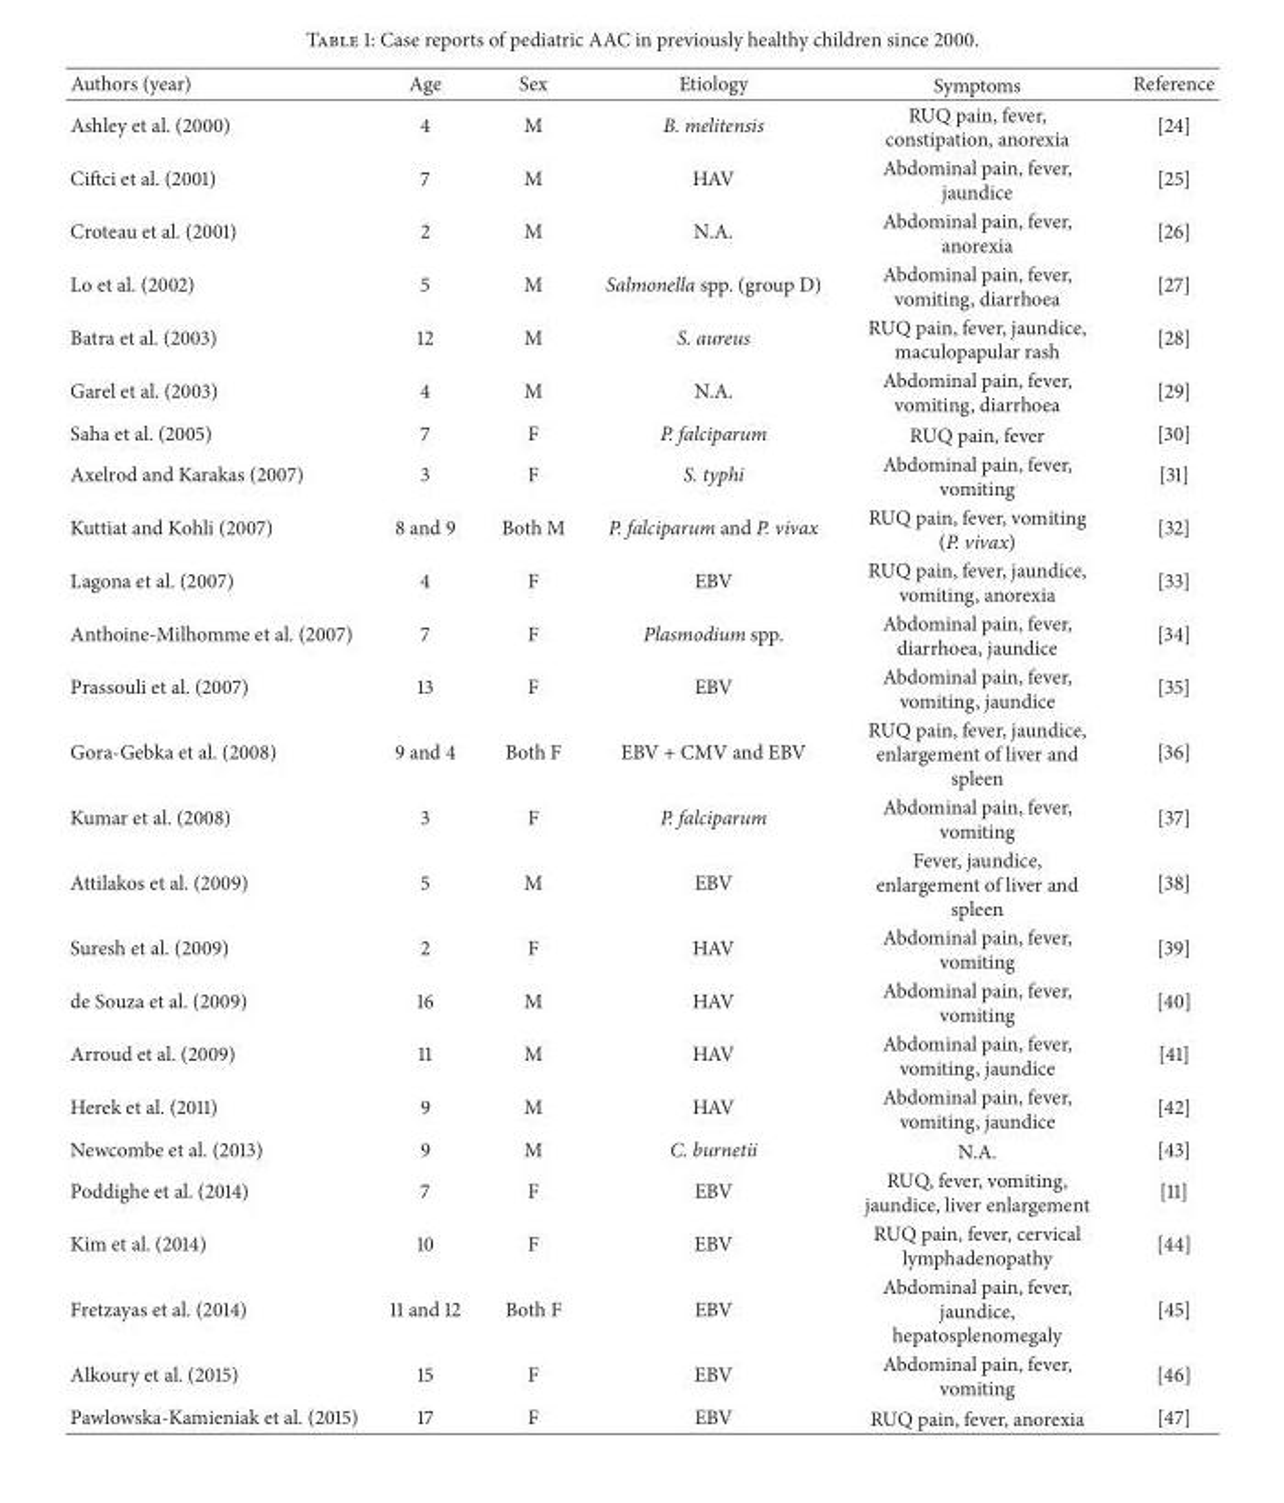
<table><thead><tr><td>Authors (year)</td><td>Age</td><td>Sex</td><td>Etiology</td><td>Symptoms</td><td>Reference</td></tr></thead><tbody><tr><td>Ashley et al. (2000)</td><td>4</td><td>M</td><td>B. melitensis</td><td>RUQ pain, fever, constipation, anorexia</td><td>[24]</td></tr><tr><td>Ciftci et al. (2001)</td><td>7</td><td>M</td><td>HAV</td><td>Abdominal pain, fever, jaundice</td><td>[25]</td></tr><tr><td>Croteau et al. (2001)</td><td>2</td><td>M</td><td>N.A.</td><td>Abdominal pain, fever, anorexia</td><td>[26]</td></tr><tr><td>Lo et al. (2002)</td><td>5</td><td>M</td><td>Salmonella spp. (group D)</td><td>Abdominal pain, fever, vomiting, diarrhoea</td><td>[27]</td></tr><tr><td>Batra et al. (2003)</td><td>12</td><td>M</td><td>S. aureus</td><td>RUQ pain, fever, jaundice, maculopapular rash</td><td>[28]</td></tr><tr><td>Garel et al. (2003)</td><td>4</td><td>M</td><td>N.A.</td><td>Abdominal pain, fever, vomiting, diarrhoea</td><td>[29]</td></tr><tr><td>Saha et al. (2005)</td><td>7</td><td>F</td><td>P. falciparum</td><td>RUQ pain, fever</td><td>[30]</td></tr><tr><td>Axelrod and Karakas (2007)</td><td>3</td><td>F</td><td>S. typhi</td><td>Abdominal pain, fever, vomiting</td><td>[31]</td></tr><tr><td>Kuttiat and Kohli (2007)</td><td>8 and 9</td><td>Both M</td><td>P. falciparum and P. vivax</td><td>RUQ pain, fever, vomiting (P. vivax)</td><td>[32]</td></tr><tr><td>Lagona et al. (2007)</td><td>4</td><td>F</td><td>EBV</td><td>RUQ pain, fever, jaundice, vomiting, anorexia</td><td>[33]</td></tr><tr><td>Anthoine-Milhomme et al. (2007)</td><td>7</td><td>F</td><td>Plasmodium spp.</td><td>Abdominal pain, fever, diarrhoea, jaundice</td><td>[34]</td></tr><tr><td>Prassouli et al. (2007)</td><td>13</td><td>F</td><td>EBV</td><td>Abdominal pain, fever, vomiting, jaundice</td><td>[35]</td></tr><tr><td>Gora-Gebka et al. (2008)</td><td>9 and 4</td><td>Both F</td><td>EBV + CMV and EBV</td><td>RUQ pain, fever, jaundice, enlargement of liver and spleen</td><td>[36]</td></tr><tr><td>Kumar et al. (2008)</td><td>3</td><td>F</td><td>P. falciparum</td><td>Abdominal pain, fever, vomiting</td><td>[37]</td></tr><tr><td>Attilakos et al. (2009)</td><td>5</td><td>M</td><td>EBV</td><td>Fever, jaundice, enlargement of liver and spleen</td><td>[38]</td></tr><tr><td>Suresh et al. (2009)</td><td>2</td><td>F</td><td>HAV</td><td>Abdominal pain, fever, vomiting</td><td>[39]</td></tr><tr><td>de Souza et al. (2009)</td><td>16</td><td>M</td><td>HAV</td><td>Abdominal pain, fever, vomiting</td><td>[40]</td></tr><tr><td>Arroud et al. (2009)</td><td>11</td><td>M</td><td>HAV</td><td>Abdominal pain, fever, vomiting, jaundice</td><td>[41]</td></tr><tr><td>Herek et al. (2011)</td><td>9</td><td>M</td><td>HAV</td><td>Abdominal pain, fever, vomiting, jaundice</td><td>[42]</td></tr><tr><td>Newcombe et al. (2013)</td><td>9</td><td>M</td><td>C. burnetii</td><td>N.A.</td><td>[43]</td></tr><tr><td>Poddighe et al. (2014)</td><td>7</td><td>F</td><td>EBV</td><td>RUQ, fever, vomiting, jaundice, liver enlargement</td><td>[11]</td></tr><tr><td>Kim et al. (2014)</td><td>10</td><td>F</td><td>EBV</td><td>RUQ pain, fever, cervical lymphadenopathy</td><td>[44]</td></tr><tr><td>Fretzayas et al. (2014)</td><td>11 and 12</td><td>Both F</td><td>EBV</td><td>Abdominal pain, fever, jaundice, hepatosplenomegaly</td><td>[45]</td></tr><tr><td>Alkoury et al. (2015)</td><td>15</td><td>F</td><td>EBV</td><td>Abdominal pain, fever, vomiting</td><td>[46]</td></tr><tr><td>Pawlowska-Kamieniak et al. (2015)</td><td>17</td><td>F</td><td>EBV</td><td>RUQ pain, fever, anorexia</td><td>[47]</td></tr></tbody></table>